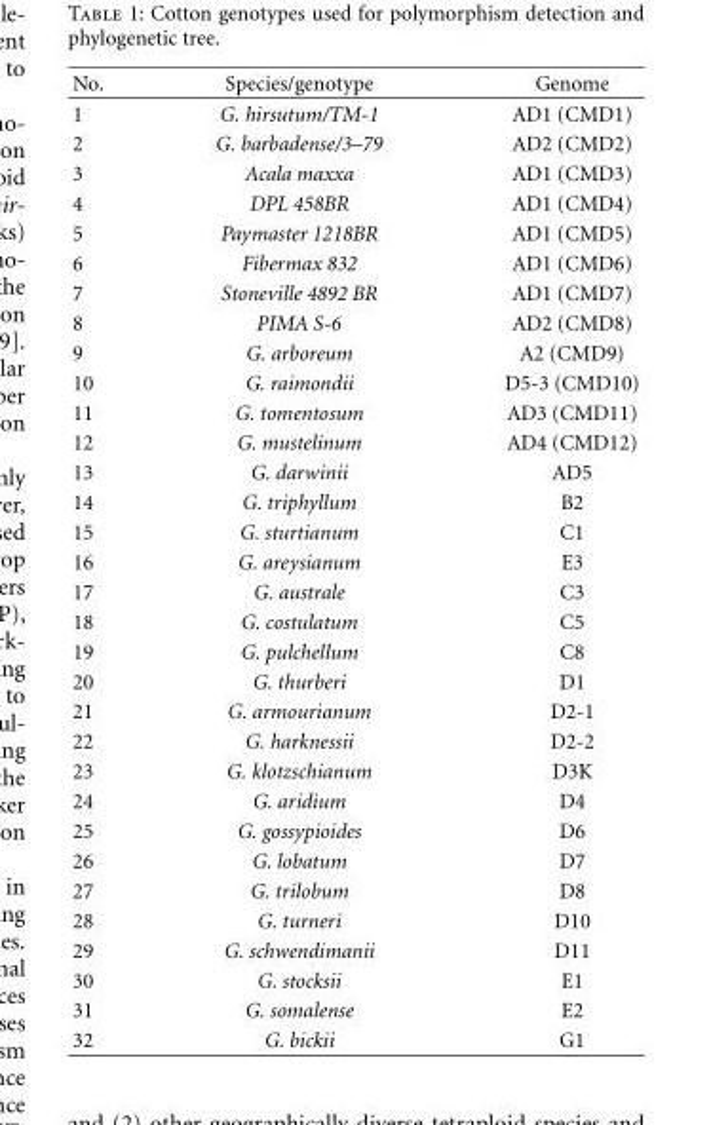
<table><thead><tr><td>No.</td><td>Species/genotype</td><td>Genome</td></tr></thead><tbody><tr><td>1</td><td>G. hirsutum/TM-1</td><td>AD1 (CMD1)</td></tr><tr><td>2</td><td>G. barbadense/3–79</td><td>AD2 (CMD2)</td></tr><tr><td>3</td><td>Acala maxxa</td><td>AD1 (CMD3)</td></tr><tr><td>4</td><td>DPL 458BR</td><td>AD1 (CMD4)</td></tr><tr><td>5</td><td>Paymaster 1218BR</td><td>AD1 (CMD5)</td></tr><tr><td>6</td><td>Fibermax 832</td><td>AD1 (CMD6)</td></tr><tr><td>7</td><td>Stoneville 4892 BR</td><td>AD1 (CMD7)</td></tr><tr><td>8</td><td>PIMA S-6</td><td>AD2 (CMD8)</td></tr><tr><td>9</td><td>G. arboreum</td><td>A2 (CMD9)</td></tr><tr><td>10</td><td>G. raimondii</td><td>D5-3 (CMD10)</td></tr><tr><td>11</td><td>G. tomentosum</td><td>AD3 (CMD11)</td></tr><tr><td>12</td><td>G. mustelinum</td><td>AD4 (CMD12)</td></tr><tr><td>13</td><td>G. darwinii</td><td>AD5</td></tr><tr><td>14</td><td>G. triphyllum</td><td>B2</td></tr><tr><td>15</td><td>G. sturtianum</td><td>C1</td></tr><tr><td>16</td><td>G. areysianum</td><td>E3</td></tr><tr><td>17</td><td>G. australe</td><td>C3</td></tr><tr><td>18</td><td>G. costulatum</td><td>C5</td></tr><tr><td>19</td><td>G. pulchellum</td><td>C8</td></tr><tr><td>20</td><td>G. thurberi</td><td>D1</td></tr><tr><td>21</td><td>G. armourianum</td><td>D2-1</td></tr><tr><td>22</td><td>G. harknessii</td><td>D2-2</td></tr><tr><td>23</td><td>G. klotzschianum</td><td>D3K</td></tr><tr><td>24</td><td>G. aridium</td><td>D4</td></tr><tr><td>25</td><td>G. gossypioides</td><td>D6</td></tr><tr><td>26</td><td>G. lobatum</td><td>D7</td></tr><tr><td>27</td><td>G. trilobum</td><td>D8</td></tr><tr><td>28</td><td>G. turneri</td><td>D10</td></tr><tr><td>29</td><td>G. schwendimanii</td><td>D11</td></tr><tr><td>30</td><td>G. stocksii</td><td>E1</td></tr><tr><td>31</td><td>G. somalense</td><td>E2</td></tr><tr><td>32</td><td>G. bickii</td><td>G1</td></tr></tbody></table>